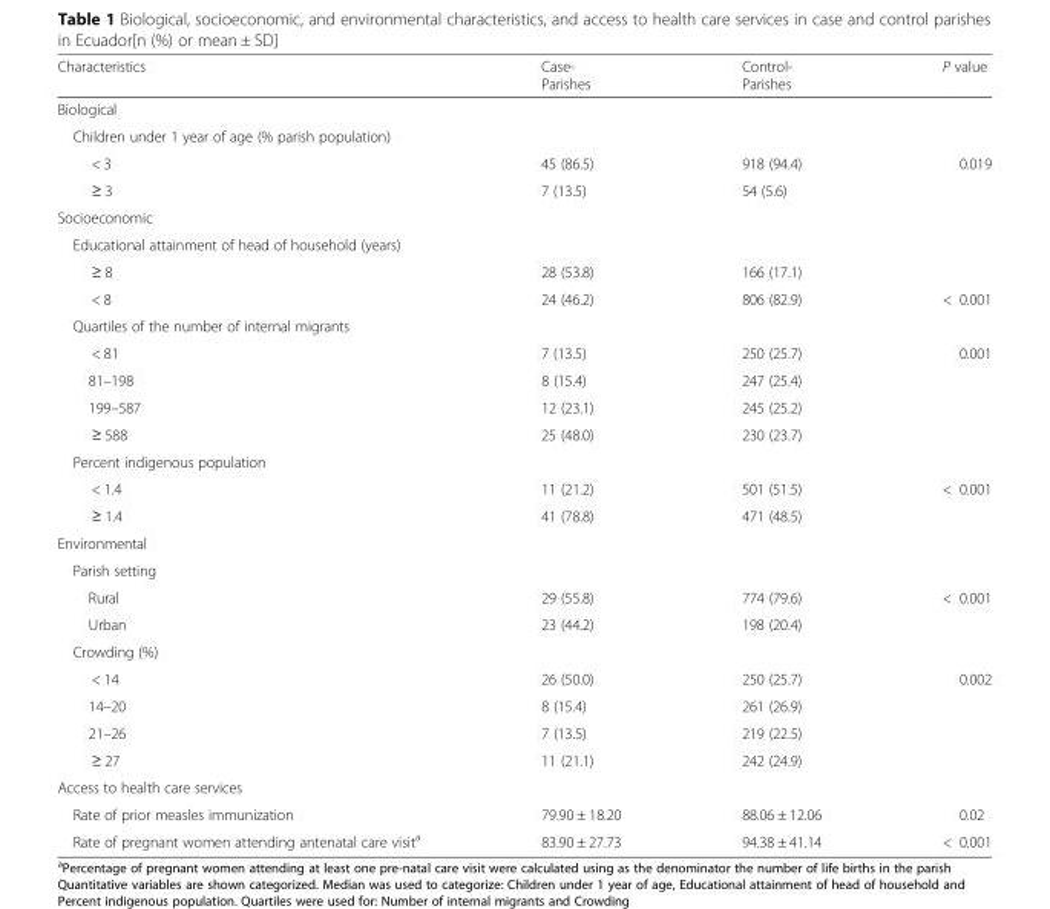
<table><thead><tr><td>Characteristics</td><td>Case- Parishes</td><td>Control- Parishes</td><td>P value</td></tr></thead><tbody><tr><td colspan="4">Biological</td></tr><tr><td colspan="4">Children under 1 year of age (% parish population)</td></tr><tr><td>&lt; 3</td><td>45 (86.5)</td><td>918 (94.4)</td><td>0.019</td></tr><tr><td>≥ 3</td><td>7 (13.5)</td><td>54 (5.6)</td><td></td></tr><tr><td colspan="4">Socioeconomic</td></tr><tr><td colspan="4">Educational attainment of head of household (years)</td></tr><tr><td>≥ 8</td><td>28 (53.8)</td><td>166 (17.1)</td><td></td></tr><tr><td>&lt; 8</td><td>24 (46.2)</td><td>806 (82.9)</td><td>&lt; 0.001</td></tr><tr><td colspan="4">Quartiles of the number of internal migrants</td></tr><tr><td>&lt; 81</td><td>7 (13.5)</td><td>250 (25.7)</td><td>0.001</td></tr><tr><td>81–198</td><td>8 (15.4)</td><td>247 (25.4)</td><td></td></tr><tr><td>199–587</td><td>12 (23.1)</td><td>245 (25.2)</td><td></td></tr><tr><td>≥ 588</td><td>25 (48.0)</td><td>230 (23.7)</td><td></td></tr><tr><td colspan="4">Percent indigenous population</td></tr><tr><td>&lt; 1.4</td><td>11 (21.2)</td><td>501 (51.5)</td><td>&lt; 0.001</td></tr><tr><td>≥ 1.4</td><td>41 (78.8)</td><td>471 (48.5)</td><td></td></tr><tr><td colspan="4">Environmental</td></tr><tr><td colspan="4">Parish setting</td></tr><tr><td>Rural</td><td>29 (55.8)</td><td>774 (79.6)</td><td>&lt; 0.001</td></tr><tr><td>Urban</td><td>23 (44.2)</td><td>198 (20.4)</td><td></td></tr><tr><td colspan="4">Crowding (%)</td></tr><tr><td>&lt; 14</td><td>26 (50.0)</td><td>250 (25.7)</td><td>0.002</td></tr><tr><td>14–20</td><td>8 (15.4)</td><td>261 (26.9)</td><td></td></tr><tr><td>21–26</td><td>7 (13.5)</td><td>219 (22.5)</td><td></td></tr><tr><td>≥ 27</td><td>11 (21.1)</td><td>242 (24.9)</td><td></td></tr><tr><td colspan="4">Access to health care services</td></tr><tr><td>Rate of prior measles immunization</td><td>79.90 ± 18.20</td><td>88.06 ± 12.06</td><td>0.02</td></tr><tr><td>Rate of pregnant women attending antenatal care visit<sup>a</sup></td><td>83.90 ± 27.73</td><td>94.38 ± 41.14</td><td>&lt; 0.001</td></tr></tbody></table>